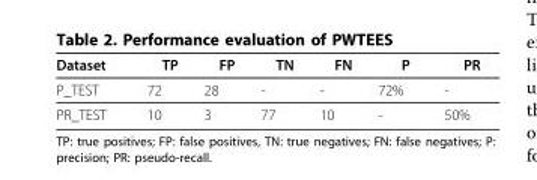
<table><thead><tr><td>Dataset</td><td>TP</td><td>FP</td><td>TN</td><td>FN</td><td>P</td><td>PR</td></tr></thead><tbody><tr><td>P_TEST</td><td>72</td><td>28</td><td>-</td><td>-</td><td>72%</td><td>-</td></tr><tr><td>PR_TEST</td><td>10</td><td>3</td><td>77</td><td>10</td><td>-</td><td>50%</td></tr></tbody></table>